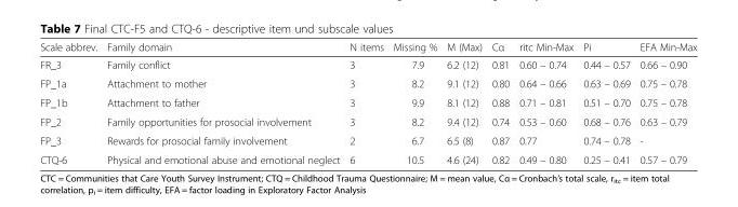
<table><thead><tr><td>Scale abbrev.</td><td>Family domain</td><td>N items</td><td>Missing %</td><td>M (Max)</td><td>Cα</td><td>ritc Min-Max</td><td>Pi</td><td>EFA Min-Max</td></tr></thead><tbody><tr><td>FR_3</td><td>Family conflict</td><td>3</td><td>7.9</td><td>6.2 (12)</td><td>0.81</td><td>0.60 – 0.74</td><td>0.44 – 0.57</td><td>0.66 – 0.90</td></tr><tr><td>FP_1a</td><td>Attachment to mother</td><td>3</td><td>8.2</td><td>9.1 (12)</td><td>0.80</td><td>0.64 – 0.66</td><td>0.63 – 0.69</td><td>0.75 – 0.78</td></tr><tr><td>FP_1b</td><td>Attachment to father</td><td>3</td><td>9.9</td><td>8.1 (12)</td><td>0.88</td><td>0.71 – 0.81</td><td>0.51 – 0.70</td><td>0.75 – 0.78</td></tr><tr><td>FP_2</td><td>Family opportunities for prosocial involvement</td><td>3</td><td>8.2</td><td>9.4 (12)</td><td>0.74</td><td>0.53 – 0.60</td><td>0.68 – 0.76</td><td>0.63 – 0.79</td></tr><tr><td>FP_3</td><td>Rewards for prosocial family involvement</td><td>2</td><td>6.7</td><td>6.5 (8)</td><td>0.87</td><td>0.77</td><td>0.74 – 0.78</td><td>-</td></tr><tr><td>CTQ-6</td><td>Physical and emotional abuse and emotional neglect</td><td>6</td><td>10.5</td><td>4.6 (24)</td><td>0.82</td><td>0.49 – 0.80</td><td>0.25 – 0.41</td><td>0.57 – 0.79</td></tr></tbody></table>